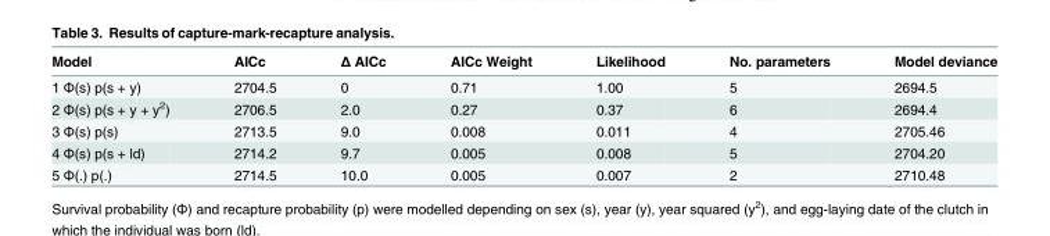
<table><thead><tr><td>Model</td><td>AICc</td><td>Δ AICc</td><td>AICc Weight</td><td>Likelihood</td><td>No. parameters</td><td>Model deviance</td></tr></thead><tbody><tr><td>1 Φ(s) p(s + y)</td><td>2704.5</td><td>0</td><td>0.71</td><td>1.00</td><td>5</td><td>2694.5</td></tr><tr><td>2 Φ(s) p(s + y + y<sup>2</sup>)</td><td>2706.5</td><td>2.0</td><td>0.27</td><td>0.37</td><td>6</td><td>2694.4</td></tr><tr><td>3 Φ(s) p(s)</td><td>2713.5</td><td>9.0</td><td>0.008</td><td>0.011</td><td>4</td><td>2705.46</td></tr><tr><td>4 Φ(s) p(s + ld)</td><td>2714.2</td><td>9.7</td><td>0.005</td><td>0.008</td><td>5</td><td>2704.20</td></tr><tr><td>5 Φ(.) p(.)</td><td>2714.5</td><td>10.0</td><td>0.005</td><td>0.007</td><td>2</td><td>2710.48</td></tr></tbody></table>